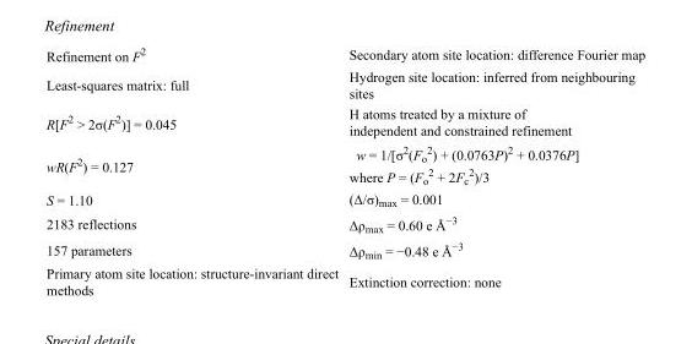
<table><tbody><tr><td>Refinement on F<sup>2</sup></td><td>Secondary atom site location: difference Fourier map</td></tr><tr><td>Least-squares matrix: full</td><td>Hydrogen site location: inferred from neighbouring sites</td></tr><tr><td>R[F<sup>2</sup> &gt; 2σ(F<sup>2</sup>)] = 0.045</td><td>H atoms treated by a mixture of independent and constrained refinement</td></tr><tr><td>wR(F<sup>2</sup>) = 0.127</td><td>w = 1/[σ<sup>2</sup>(F<sub>o</sub> <sup>2</sup>) + (0.0763P)<sup>2</sup> + 0.0376P] where P = (F<sub>o</sub> <sup>2</sup> + 2F<sub>c</sub> <sup>2</sup>)/3</td></tr><tr><td>S = 1.10</td><td>(Δ/σ)<sub>max</sub> = 0.001</td></tr><tr><td>2183 reflections</td><td>Δρ<sub>max</sub> = 0.60 e Å<sup>−3</sup></td></tr><tr><td>157 parameters</td><td>Δρ<sub>min</sub> = −0.48 e Å<sup>−3</sup></td></tr><tr><td>Primary atom site location: structure-invariant direct methods</td><td>Extinction correction: none</td></tr></tbody></table>